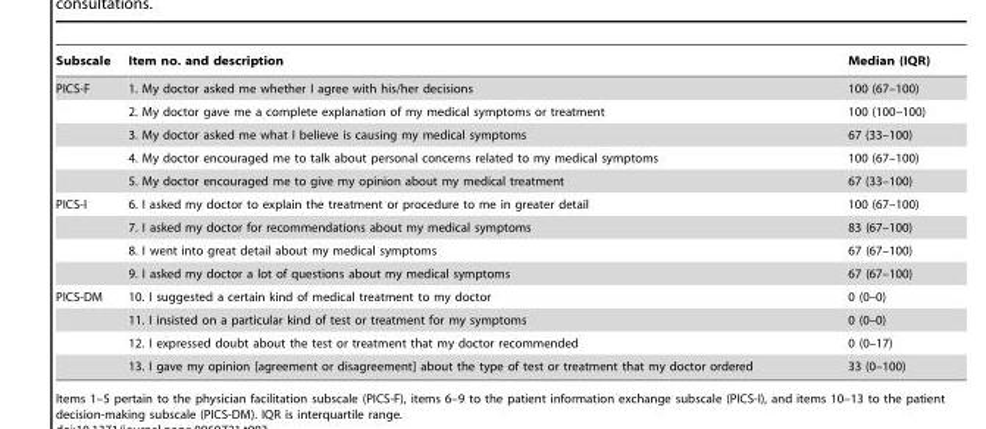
<table><thead><tr><td>Subscale</td><td>Item no. and description</td><td>Median (IQR)</td></tr></thead><tbody><tr><td rowspan="5">PICS-F</td><td>1. My doctor asked me whether I agree with his/her decisions</td><td>100 (67–100)</td></tr><tr><td>2. My doctor gave me a complete explanation of my medical symptoms or treatment</td><td>100 (100–100)</td></tr><tr><td>3. My doctor asked me what I believe is causing my medical symptoms</td><td>67 (33–100)</td></tr><tr><td>4. My doctor encouraged me to talk about personal concerns related to my medical symptoms</td><td>100 (67–100)</td></tr><tr><td>5. My doctor encouraged me to give my opinion about my medical treatment</td><td>67 (33–100)</td></tr><tr><td rowspan="4">PICS-I</td><td>6. I asked my doctor to explain the treatment or procedure to me in greater detail</td><td>100 (67–100)</td></tr><tr><td>7. I asked my doctor for recommendations about my medical symptoms</td><td>83 (67–100)</td></tr><tr><td>8. I went into great detail about my medical symptoms</td><td>67 (67–100)</td></tr><tr><td>9. I asked my doctor a lot of questions about my medical symptoms</td><td>67 (67–100)</td></tr><tr><td rowspan="4">PICS-DM</td><td>10. I suggested a certain kind of medical treatment to my doctor</td><td>0 (0–0)</td></tr><tr><td>11. I insisted on a particular kind of test or treatment for my symptoms</td><td>0 (0–0)</td></tr><tr><td>12. I expressed doubt about the test or treatment that my doctor recommended</td><td>0 (0–17)</td></tr><tr><td>13. I gave my opinion [agreement or disagreement] about the type of test or treatment that my doctor ordered</td><td>33 (0–100)</td></tr></tbody></table>